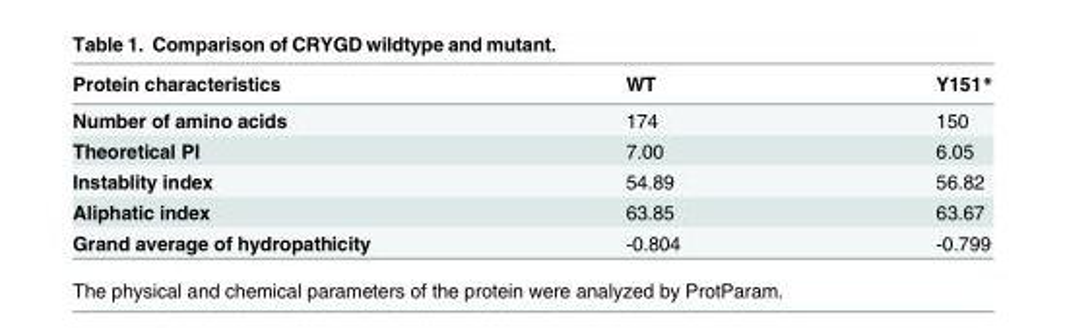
<table><thead><tr><td>Protein characteristics</td><td>WT</td><td>Y151*</td></tr></thead><tbody><tr><td>Number of amino acids</td><td>174</td><td>150</td></tr><tr><td>Theoretical PI</td><td>7.00</td><td>6.05</td></tr><tr><td>Instablity index</td><td>54.89</td><td>56.82</td></tr><tr><td>Aliphatic index</td><td>63.85</td><td>63.67</td></tr><tr><td>Grand average of hydropathicity</td><td>-0.804</td><td>-0.799</td></tr></tbody></table>